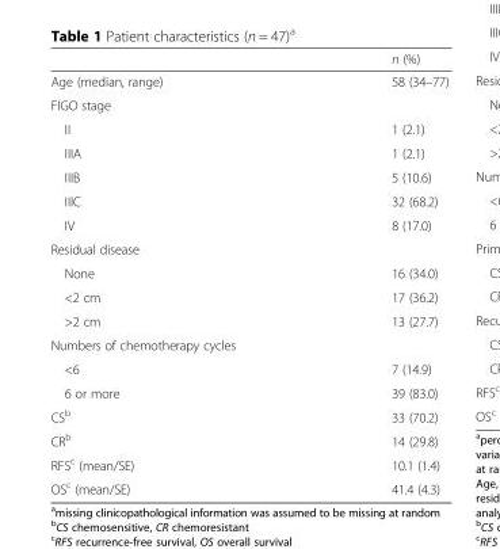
<table><thead><tr><td></td><td>n (%)</td></tr></thead><tbody><tr><td>Age (median, range)</td><td>58 (34–77)</td></tr><tr><td colspan="2">FIGO stage</td></tr><tr><td>II</td><td>1 (2.1)</td></tr><tr><td>IIIA</td><td>1 (2.1)</td></tr><tr><td>IIIB</td><td>5 (10.6)</td></tr><tr><td>IIIC</td><td>32 (68.2)</td></tr><tr><td>IV</td><td>8 (17.0)</td></tr><tr><td colspan="2">Residual disease</td></tr><tr><td>None</td><td>16 (34.0)</td></tr><tr><td>&lt;2 cm</td><td>17 (36.2)</td></tr><tr><td>&gt;2 cm</td><td>13 (27.7)</td></tr><tr><td colspan="2">Numbers of chemotherapy cycles</td></tr><tr><td>&lt;6</td><td>7 (14.9)</td></tr><tr><td>6 or more</td><td>39 (83.0)</td></tr><tr><td>CS<sup>b</sup></td><td>33 (70.2)</td></tr><tr><td>CR<sup>b</sup></td><td>14 (29.8)</td></tr><tr><td>RFS<sup>c</sup> (mean/SE)</td><td>10.1 (1.4)</td></tr><tr><td>OS<sup>c</sup> (mean/SE)</td><td>41.4 (4.3)</td></tr></tbody></table>